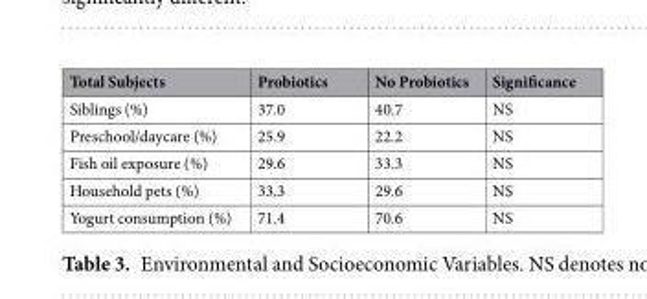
<table><thead><tr><td>Total Subjects</td><td>Probiotics</td><td>No Probiotics</td><td>Significance</td></tr></thead><tbody><tr><td>Siblings (%)</td><td>37.0</td><td>40.7</td><td>NS</td></tr><tr><td>Preschool/daycare (%)</td><td>25.9</td><td>22.2</td><td>NS</td></tr><tr><td>Fish oil exposure (%)</td><td>29.6</td><td>33.3</td><td>NS</td></tr><tr><td>Household pets (%)</td><td>33.3</td><td>29.6</td><td>NS</td></tr><tr><td>Yogurt consumption (%)</td><td>71.4</td><td>70.6</td><td>NS</td></tr></tbody></table>